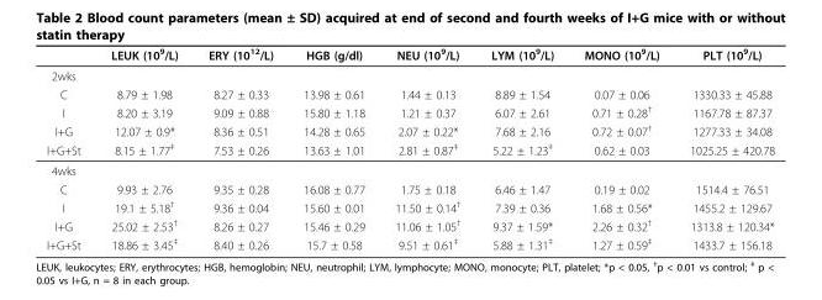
<table><thead><tr><td></td><td>LEUK (10<sup>9</sup>/L)</td><td>ERY (10<sup>12</sup>/L)</td><td>HGB (g/dl)</td><td>NEU (10<sup>9</sup>/L)</td><td>LYM (10<sup>9</sup>/L)</td><td>MONO (10<sup>9</sup>/L)</td><td>PLT (10<sup>9</sup>/L)</td></tr></thead><tbody><tr><td colspan="8">2wks</td></tr><tr><td>C</td><td>8.79 ± 1.98</td><td>8.27 ± 0.33</td><td>13.98 ± 0.61</td><td>1.44 ± 0.13</td><td>8.89 ± 1.54</td><td>0.07 ± 0.06</td><td>1330.33 ± 45.88</td></tr><tr><td>I</td><td>8.20 ± 3.19</td><td>9.09 ± 0.88</td><td>15.80 ± 1.18</td><td>1.21 ± 0.37</td><td>6.07 ± 2.61</td><td>0.71 ± 0.28<sup>†</sup></td><td>1167.78 ± 87.37</td></tr><tr><td>I+G</td><td>12.07 ± 0.9*</td><td>8.36 ± 0.51</td><td>14.28 ± 0.65</td><td>2.07 ± 0.22*</td><td>7.68 ± 2.16</td><td>0.72 ± 0.07<sup>†</sup></td><td>1277.33 ± 34.08</td></tr><tr><td>I+G+St</td><td>8.15 ± 1.77<sup>‡</sup></td><td>7.53 ± 0.26</td><td>13.63 ± 1.01</td><td>2.81 ± 0.87<sup>‡</sup></td><td>5.22 ± 1.23<sup>‡</sup></td><td>0.62 ± 0.03</td><td>1025.25 ± 420.78</td></tr><tr><td colspan="8">4wks</td></tr><tr><td>C</td><td>9.93 ± 2.76</td><td>9.35 ± 0.28</td><td>16.08 ± 0.77</td><td>1.75 ± 0.18</td><td>6.46 ± 1.47</td><td>0.19 ± 0.02</td><td>1514.4 ± 76.51</td></tr><tr><td>I</td><td>19.1 ± 5.18<sup>†</sup></td><td>9.36 ± 0.04</td><td>15.60 ± 0.01</td><td>11.50 ± 0.14<sup>†</sup></td><td>7.39 ± 0.36</td><td>1.68 ± 0.56*</td><td>1455.2 ± 129.67</td></tr><tr><td>I+G</td><td>25.02 ± 2.53<sup>†</sup></td><td>8.26 ± 0.27</td><td>15.46 ± 0.29</td><td>11.06 ± 1.05<sup>†</sup></td><td>9.37 ± 1.59*</td><td>2.26 ± 0.32<sup>†</sup></td><td>1313.8 ± 120.34*</td></tr><tr><td>I+G+St</td><td>18.86 ± 3.45<sup>‡</sup></td><td>8.40 ± 0.26</td><td>15.7 ± 0.58</td><td>9.51 ± 0.61<sup>‡</sup></td><td>5.88 ± 1.31<sup>‡</sup></td><td>1.27 ± 0.59<sup>‡</sup></td><td>1433.7 ± 156.18</td></tr></tbody></table>